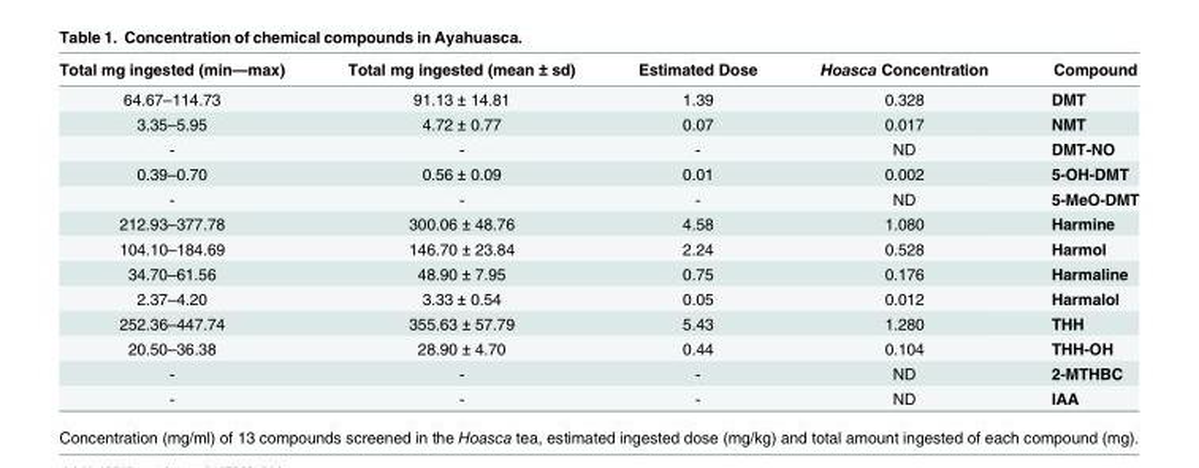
<table><thead><tr><td>Total mg ingested (min—max)</td><td>Total mg ingested (mean ± sd)</td><td>Estimated Dose</td><td>Hoasca Concentration</td><td>Compound</td></tr></thead><tbody><tr><td>64.67–114.73</td><td>91.13 ± 14.81</td><td>1.39</td><td>0.328</td><td>DMT</td></tr><tr><td>3.35–5.95</td><td>4.72 ± 0.77</td><td>0.07</td><td>0.017</td><td>NMT</td></tr><tr><td>-</td><td>-</td><td>-</td><td>ND</td><td>DMT-NO</td></tr><tr><td>0.39–0.70</td><td>0.56 ± 0.09</td><td>0.01</td><td>0.002</td><td>5-OH-DMT</td></tr><tr><td>-</td><td>-</td><td>-</td><td>ND</td><td>5-MeO-DMT</td></tr><tr><td>212.93–377.78</td><td>300.06 ± 48.76</td><td>4.58</td><td>1.080</td><td>Harmine</td></tr><tr><td>104.10–184.69</td><td>146.70 ± 23.84</td><td>2.24</td><td>0.528</td><td>Harmol</td></tr><tr><td>34.70–61.56</td><td>48.90 ± 7.95</td><td>0.75</td><td>0.176</td><td>Harmaline</td></tr><tr><td>2.37–4.20</td><td>3.33 ± 0.54</td><td>0.05</td><td>0.012</td><td>Harmalol</td></tr><tr><td>252.36–447.74</td><td>355.63 ± 57.79</td><td>5.43</td><td>1.280</td><td>THH</td></tr><tr><td>20.50–36.38</td><td>28.90 ± 4.70</td><td>0.44</td><td>0.104</td><td>THH-OH</td></tr><tr><td>-</td><td>-</td><td>-</td><td>ND</td><td>2-MTHBC</td></tr><tr><td>-</td><td>-</td><td>-</td><td>ND</td><td>IAA</td></tr></tbody></table>